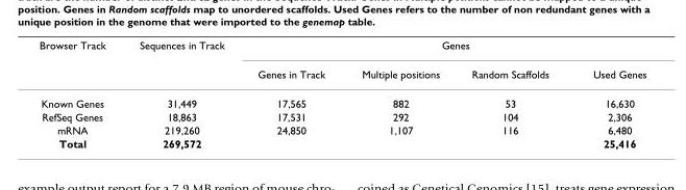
<table><thead><tr><td rowspan="2">Browser Track</td><td rowspan="2">Sequences in Track</td><td colspan="4">Genes</td></tr><tr><td>Genes in Track</td><td>Multiple positions</td><td>Random Scaffolds</td><td>Used Genes</td></tr></thead><tbody><tr><td>Known Genes</td><td>31,449</td><td>17,565</td><td>882</td><td>53</td><td>16,630</td></tr><tr><td>RefSeq Genes</td><td>18,863</td><td>17,531</td><td>292</td><td>104</td><td>2,306</td></tr><tr><td>mRNA</td><td>219,260</td><td>24,850</td><td>1,107</td><td>116</td><td>6,480</td></tr><tr><td>Total</td><td>269,572</td><td></td><td></td><td></td><td>25,416</td></tr></tbody></table>